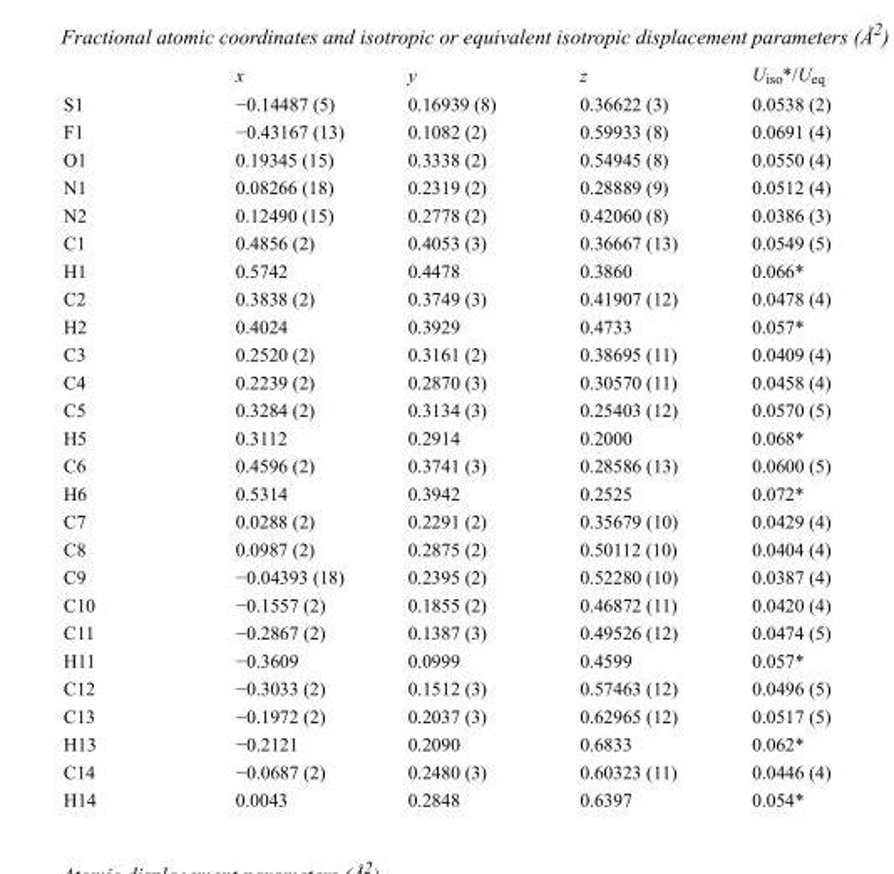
<table><thead><tr><td></td><td>x</td><td>y</td><td>z</td><td>U<sub>iso</sub>*/U<sub>eq</sub></td></tr></thead><tbody><tr><td>S1</td><td>−0.14487 (5)</td><td>0.16939 (8)</td><td>0.36622 (3)</td><td>0.0538 (2)</td></tr><tr><td>F1</td><td>−0.43167 (13)</td><td>0.1082 (2)</td><td>0.59933 (8)</td><td>0.0691 (4)</td></tr><tr><td>O1</td><td>0.19345 (15)</td><td>0.3338 (2)</td><td>0.54945 (8)</td><td>0.0550 (4)</td></tr><tr><td>N1</td><td>0.08266 (18)</td><td>0.2319 (2)</td><td>0.28889 (9)</td><td>0.0512 (4)</td></tr><tr><td>N2</td><td>0.12490 (15)</td><td>0.2778 (2)</td><td>0.42060 (8)</td><td>0.0386 (3)</td></tr><tr><td>C1</td><td>0.4856 (2)</td><td>0.4053 (3)</td><td>0.36667 (13)</td><td>0.0549 (5)</td></tr><tr><td>H1</td><td>0.5742</td><td>0.4478</td><td>0.3860</td><td>0.066*</td></tr><tr><td>C2</td><td>0.3838 (2)</td><td>0.3749 (3)</td><td>0.41907 (12)</td><td>0.0478 (4)</td></tr><tr><td>H2</td><td>0.4024</td><td>0.3929</td><td>0.4733</td><td>0.057*</td></tr><tr><td>C3</td><td>0.2520 (2)</td><td>0.3161 (2)</td><td>0.38695 (11)</td><td>0.0409 (4)</td></tr><tr><td>C4</td><td>0.2239 (2)</td><td>0.2870 (3)</td><td>0.30570 (11)</td><td>0.0458 (4)</td></tr><tr><td>C5</td><td>0.3284 (2)</td><td>0.3134 (3)</td><td>0.25403 (12)</td><td>0.0570 (5)</td></tr><tr><td>H5</td><td>0.3112</td><td>0.2914</td><td>0.2000</td><td>0.068*</td></tr><tr><td>C6</td><td>0.4596 (2)</td><td>0.3741 (3)</td><td>0.28586 (13)</td><td>0.0600 (5)</td></tr><tr><td>H6</td><td>0.5314</td><td>0.3942</td><td>0.2525</td><td>0.072*</td></tr><tr><td>C7</td><td>0.0288 (2)</td><td>0.2291 (2)</td><td>0.35679 (10)</td><td>0.0429 (4)</td></tr><tr><td>C8</td><td>0.0987 (2)</td><td>0.2875 (2)</td><td>0.50112 (10)</td><td>0.0404 (4)</td></tr><tr><td>C9</td><td>−0.04393 (18)</td><td>0.2395 (2)</td><td>0.52280 (10)</td><td>0.0387 (4)</td></tr><tr><td>C10</td><td>−0.1557 (2)</td><td>0.1855 (2)</td><td>0.46872 (11)</td><td>0.0420 (4)</td></tr><tr><td>C11</td><td>−0.2867 (2)</td><td>0.1387 (3)</td><td>0.49526 (12)</td><td>0.0474 (5)</td></tr><tr><td>H11</td><td>−0.3609</td><td>0.0999</td><td>0.4599</td><td>0.057*</td></tr><tr><td>C12</td><td>−0.3033 (2)</td><td>0.1512 (3)</td><td>0.57463 (12)</td><td>0.0496 (5)</td></tr><tr><td>C13</td><td>−0.1972 (2)</td><td>0.2037 (3)</td><td>0.62965 (12)</td><td>0.0517 (5)</td></tr><tr><td>H13</td><td>−0.2121</td><td>0.2090</td><td>0.6833</td><td>0.062*</td></tr><tr><td>C14</td><td>−0.0687 (2)</td><td>0.2480 (3)</td><td>0.60323 (11)</td><td>0.0446 (4)</td></tr><tr><td>H14</td><td>0.0043</td><td>0.2848</td><td>0.6397</td><td>0.054*</td></tr></tbody></table>